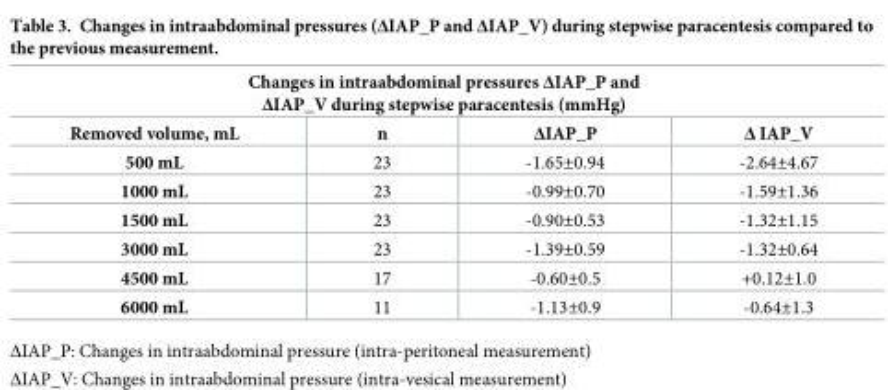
<table><thead><tr><td colspan="4">Changes in intraabdominal pressures ΔIAP_P and ΔIAP_V during stepwise paracentesis (mmHg)</td></tr><tr><td>Removed volume, mL</td><td>n</td><td>ΔIAP_P</td><td>Δ IAP_V</td></tr></thead><tbody><tr><td>500 mL</td><td>23</td><td>-1.65±0.94</td><td>-2.64±4.67</td></tr><tr><td>1000 mL</td><td>23</td><td>-0.99±0.70</td><td>-1.59±1.36</td></tr><tr><td>1500 mL</td><td>23</td><td>-0.90±0.53</td><td>-1.32±1.15</td></tr><tr><td>3000 mL</td><td>23</td><td>-1.39±0.59</td><td>-1.32±0.64</td></tr><tr><td>4500 mL</td><td>17</td><td>-0.60±0.5</td><td>+0.12±1.0</td></tr><tr><td>6000 mL</td><td>11</td><td>-1.13±0.9</td><td>-0.64±1.3</td></tr></tbody></table>